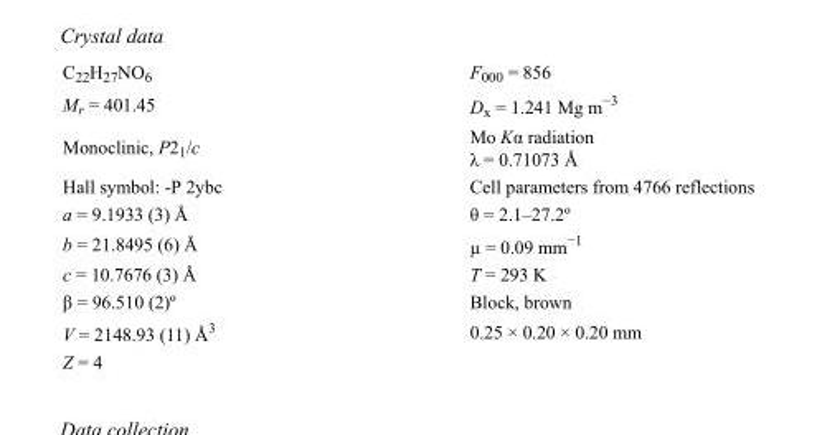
<table><tbody><tr><td>C<sub>22</sub>H<sub>27</sub>NO<sub>6</sub></td><td>F000 = 856</td></tr><tr><td>M<sub>r</sub> = 401.45</td><td>D<sub>x</sub> = 1.241 Mg m<sup>−3</sup></td></tr><tr><td>Monoclinic, P2<sub>1</sub>/c</td><td>Mo Kα radiation λ = 0.71073 Å</td></tr><tr><td>Hall symbol: -P 2ybc</td><td>Cell parameters from 4766 reflections</td></tr><tr><td>a = 9.1933 (3) Å</td><td>θ = 2.1–27.2º</td></tr><tr><td>b = 21.8495 (6) Å</td><td>µ = 0.09 mm<sup>−1</sup></td></tr><tr><td>c = 10.7676 (3) Å</td><td>T = 293 K</td></tr><tr><td>β = 96.510 (2)º</td><td>Block, brown</td></tr><tr><td>V = 2148.93 (11) Å<sup>3</sup></td><td>0.25 × 0.20 × 0.20 mm</td></tr><tr><td>Z = 4</td><td></td></tr></tbody></table>